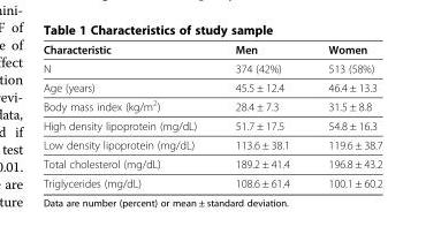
<table><thead><tr><td>Characteristic</td><td>Men</td><td>Women</td></tr></thead><tbody><tr><td>N</td><td>374 (42%)</td><td>513 (58%)</td></tr><tr><td>Age (years)</td><td>45.5 ± 12.4</td><td>46.4 ± 13.3</td></tr><tr><td>Body mass index (kg/m<sup>2</sup>)</td><td>28.4 ± 7.3</td><td>31.5 ± 8.8</td></tr><tr><td>High density lipoprotein (mg/dL)</td><td>51.7 ± 17.5</td><td>54.8 ± 16.3</td></tr><tr><td>Low density lipoprotein (mg/dL)</td><td>113.6 ± 38.1</td><td>119.6 ± 38.7</td></tr><tr><td>Total cholesterol (mg/dL)</td><td>189.2 ± 41.4</td><td>196.8 ± 43.2</td></tr><tr><td>Triglycerides (mg/dL)</td><td>108.6 ± 61.4</td><td>100.1 ± 60.2</td></tr></tbody></table>